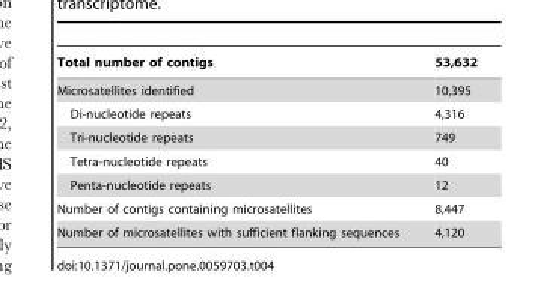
<table><thead><tr><td>Total number of contigs</td><td>53,632</td></tr></thead><tbody><tr><td>Microsatellites identified</td><td>10,395</td></tr><tr><td>Di-nucleotide repeats</td><td>4,316</td></tr><tr><td>Tri-nucleotide repeats</td><td>749</td></tr><tr><td>Tetra-nucleotide repeats</td><td>40</td></tr><tr><td>Penta-nucleotide repeats</td><td>12</td></tr><tr><td>Number of contigs containing microsatellites</td><td>8,447</td></tr><tr><td>Number of microsatellites with sufficient flanking sequences</td><td>4,120</td></tr></tbody></table>